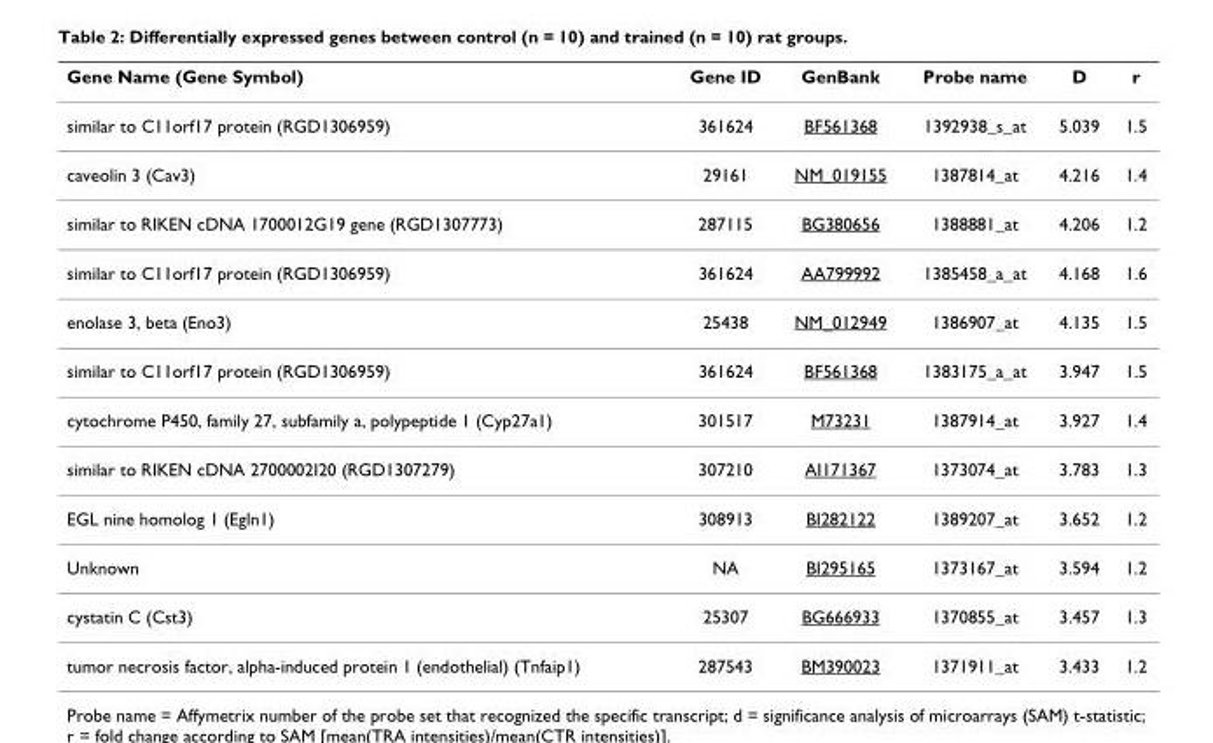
<table><thead><tr><td>Gene Name (Gene Symbol)</td><td>Gene ID</td><td>GenBank</td><td>Probe name</td><td>D</td><td>r</td></tr></thead><tbody><tr><td>similar to C11orf17 protein (RGD1306959)</td><td>361624</td><td>BF561368</td><td>1392938_s_at</td><td>5.039</td><td>1.5</td></tr><tr><td>caveolin 3 (Cav3)</td><td>29161</td><td>NM_019155</td><td>1387814_at</td><td>4.216</td><td>1.4</td></tr><tr><td>similar to RIKEN cDNA 1700012G19 gene (RGD1307773)</td><td>287115</td><td>BG380656</td><td>1388881_at</td><td>4.206</td><td>1.2</td></tr><tr><td>similar to C11orf17 protein (RGD1306959)</td><td>361624</td><td>AA799992</td><td>1385458_a_at</td><td>4.168</td><td>1.6</td></tr><tr><td>enolase 3, beta (Eno3)</td><td>25438</td><td>NM_012949</td><td>1386907_at</td><td>4.135</td><td>1.5</td></tr><tr><td>similar to C11orf17 protein (RGD1306959)</td><td>361624</td><td>BF561368</td><td>1383175_a_at</td><td>3.947</td><td>1.5</td></tr><tr><td>cytochrome P450, family 27, subfamily a, polypeptide 1 (Cyp27a1)</td><td>301517</td><td>M73231</td><td>1387914_at</td><td>3.927</td><td>1.4</td></tr><tr><td>similar to RIKEN cDNA 2700002I20 (RGD1307279)</td><td>307210</td><td>AI171367</td><td>1373074_at</td><td>3.783</td><td>1.3</td></tr><tr><td>EGL nine homolog 1 (Egln1)</td><td>308913</td><td>BI282122</td><td>1389207_at</td><td>3.652</td><td>1.2</td></tr><tr><td>Unknown</td><td>NA</td><td>BI295165</td><td>1373167_at</td><td>3.594</td><td>1.2</td></tr><tr><td>cystatin C (Cst3)</td><td>25307</td><td>BG666933</td><td>1370855_at</td><td>3.457</td><td>1.3</td></tr><tr><td>tumor necrosis factor, alpha-induced protein 1 (endothelial) (Tnfaip1)</td><td>287543</td><td>BM390023</td><td>1371911_at</td><td>3.433</td><td>1.2</td></tr></tbody></table>